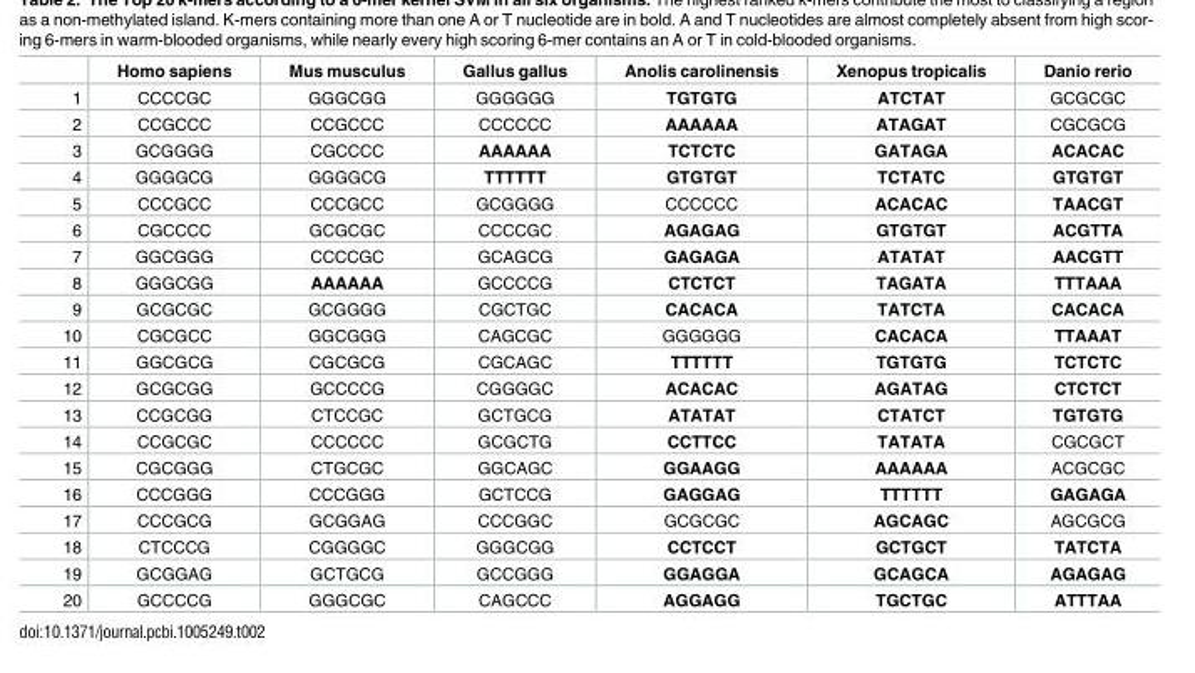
<table><thead><tr><td></td><td>Homo sapiens</td><td>Mus musculus</td><td>Gallus gallus</td><td>Anolis carolinensis</td><td>Xenopus tropicalis</td><td>Danio rerio</td></tr></thead><tbody><tr><td>1</td><td>CCCCGC</td><td>GGGCGG</td><td>GGGGGG</td><td>TGTGTG</td><td>ATCTAT</td><td>GCGCGC</td></tr><tr><td>2</td><td>CCGCCC</td><td>CCGCCC</td><td>CCCCCC</td><td>AAAAAA</td><td>ATAGAT</td><td>CGCGCG</td></tr><tr><td>3</td><td>GCGGGG</td><td>CGCCCC</td><td>AAAAAA</td><td>TCTCTC</td><td>GATAGA</td><td>ACACAC</td></tr><tr><td>4</td><td>GGGGCG</td><td>GGGGCG</td><td>TTTTTT</td><td>GTGTGT</td><td>TCTATC</td><td>GTGTGT</td></tr><tr><td>5</td><td>CCCGCC</td><td>CCCGCC</td><td>GCGGGG</td><td>CCCCCC</td><td>ACACAC</td><td>TAACGT</td></tr><tr><td>6</td><td>CGCCCC</td><td>GCGCGC</td><td>CCCCGC</td><td>AGAGAG</td><td>GTGTGT</td><td>ACGTTA</td></tr><tr><td>7</td><td>GGCGGG</td><td>CCCCGC</td><td>GCAGCG</td><td>GAGAGA</td><td>ATATAT</td><td>AACGTT</td></tr><tr><td>8</td><td>GGGCGG</td><td>AAAAAA</td><td>GCCCCG</td><td>CTCTCT</td><td>TAGATA</td><td>TTTAAA</td></tr><tr><td>9</td><td>GCGCGC</td><td>GCGGGG</td><td>CGCTGC</td><td>CACACA</td><td>TATCTA</td><td>CACACA</td></tr><tr><td>10</td><td>CGCGCC</td><td>GGCGGG</td><td>CAGCGC</td><td>GGGGGG</td><td>CACACA</td><td>TTAAAT</td></tr><tr><td>11</td><td>GGCGCG</td><td>CGCGCG</td><td>CGCAGC</td><td>TTTTTT</td><td>TGTGTG</td><td>TCTCTC</td></tr><tr><td>12</td><td>GCGCGG</td><td>GCCCCG</td><td>CGGGGC</td><td>ACACAC</td><td>AGATAG</td><td>CTCTCT</td></tr><tr><td>13</td><td>CCGCGG</td><td>CTCCGC</td><td>GCTGCG</td><td>ATATAT</td><td>CTATCT</td><td>TGTGTG</td></tr><tr><td>14</td><td>CCGCGC</td><td>CCCCCC</td><td>GCGCTG</td><td>CCTTCC</td><td>TATATA</td><td>CGCGCT</td></tr><tr><td>15</td><td>CGCGGG</td><td>CTGCGC</td><td>GGCAGC</td><td>GGAAGG</td><td>AAAAAA</td><td>ACGCGC</td></tr><tr><td>16</td><td>CCCGGG</td><td>CCCGGG</td><td>GCTCCG</td><td>GAGGAG</td><td>TTTTTT</td><td>GAGAGA</td></tr><tr><td>17</td><td>CCCGCG</td><td>GCGGAG</td><td>CCCGGC</td><td>GCGCGC</td><td>AGCAGC</td><td>AGCGCG</td></tr><tr><td>18</td><td>CTCCCG</td><td>CGGGGC</td><td>GGGCGG</td><td>CCTCCT</td><td>GCTGCT</td><td>TATCTA</td></tr><tr><td>19</td><td>GCGGAG</td><td>GCTGCG</td><td>GCCGGG</td><td>GGAGGA</td><td>GCAGCA</td><td>AGAGAG</td></tr><tr><td>20</td><td>GCCCCG</td><td>GGGCGC</td><td>CAGCCC</td><td>AGGAGG</td><td>TGCTGC</td><td>ATTTAA</td></tr></tbody></table>